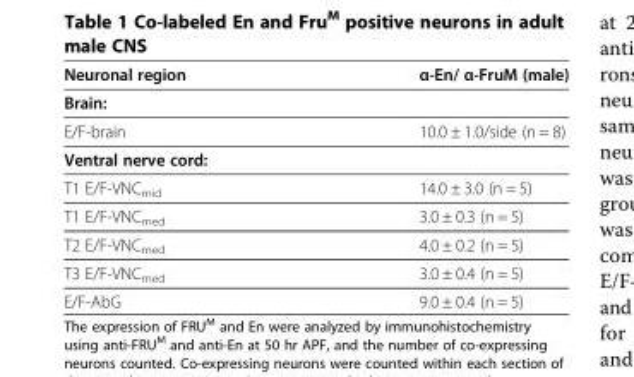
<table><thead><tr><td>Neuronal region</td><td>α-En/ α-FruM (male)</td></tr></thead><tbody><tr><td colspan="2">Brain:</td></tr><tr><td>E/F-brain</td><td>10.0 ± 1.0/side (n = 8)</td></tr><tr><td colspan="2">Ventral nerve cord:</td></tr><tr><td>T1 E/F-VNC<sub>mid</sub></td><td>14.0 ± 3.0 (n = 5)</td></tr><tr><td>T1 E/F-VNC<sub>med</sub></td><td>3.0 ± 0.3 (n = 5)</td></tr><tr><td>T2 E/F-VNC<sub>med</sub></td><td>4.0 ± 0.2 (n = 5)</td></tr><tr><td>T3 E/F-VNC<sub>med</sub></td><td>3.0 ± 0.4 (n = 5)</td></tr><tr><td>E/F-AbG</td><td>9.0 ± 0.4 (n = 5)</td></tr></tbody></table>